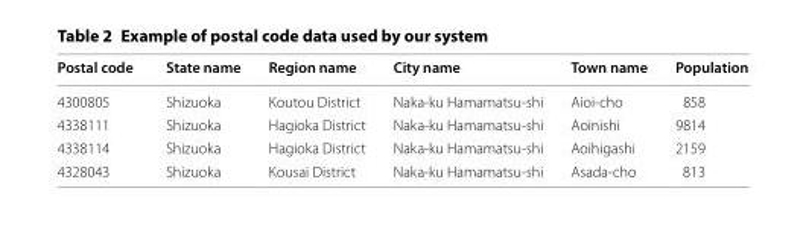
<table><thead><tr><td>Postal code</td><td>State name</td><td>Region name</td><td>City name</td><td>Town name</td><td>Population</td></tr></thead><tbody><tr><td>4300805</td><td>Shizuoka</td><td>Koutou District</td><td>Naka‑ku Hamamatsu‑shi</td><td>Aioi‑cho</td><td>858</td></tr><tr><td>4338111</td><td>Shizuoka</td><td>Hagioka District</td><td>Naka‑ku Hamamatsu‑shi</td><td>Aoinishi</td><td>9814</td></tr><tr><td>4338114</td><td>Shizuoka</td><td>Hagioka District</td><td>Naka‑ku Hamamatsu‑shi</td><td>Aoihigashi</td><td>2159</td></tr><tr><td>4328043</td><td>Shizuoka</td><td>Kousai District</td><td>Naka‑ku Hamamatsu‑shi</td><td>Asada‑cho</td><td>813</td></tr></tbody></table>